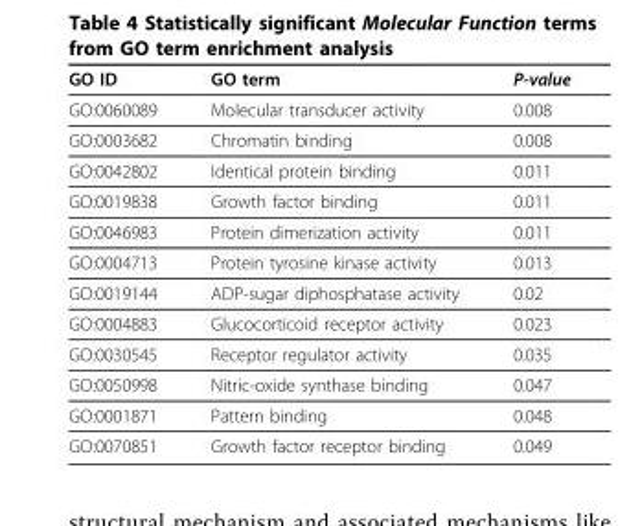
<table><thead><tr><td>GO ID</td><td>GO term</td><td>P-value</td></tr></thead><tbody><tr><td>GO:0060089</td><td>Molecular transducer activity</td><td>0.008</td></tr><tr><td>GO:0003682</td><td>Chromatin binding</td><td>0.008</td></tr><tr><td>GO:0042802</td><td>Identical protein binding</td><td>0.011</td></tr><tr><td>GO:0019838</td><td>Growth factor binding</td><td>0.011</td></tr><tr><td>GO:0046983</td><td>Protein dimerization activity</td><td>0.011</td></tr><tr><td>GO:0004713</td><td>Protein tyrosine kinase activity</td><td>0.013</td></tr><tr><td>GO:0019144</td><td>ADP-sugar diphosphatase activity</td><td>0.02</td></tr><tr><td>GO:0004883</td><td>Glucocorticoid receptor activity</td><td>0.023</td></tr><tr><td>GO:0030545</td><td>Receptor regulator activity</td><td>0.035</td></tr><tr><td>GO:0050998</td><td>Nitric-oxide synthase binding</td><td>0.047</td></tr><tr><td>GO:0001871</td><td>Pattern binding</td><td>0.048</td></tr><tr><td>GO:0070851</td><td>Growth factor receptor binding</td><td>0.049</td></tr></tbody></table>